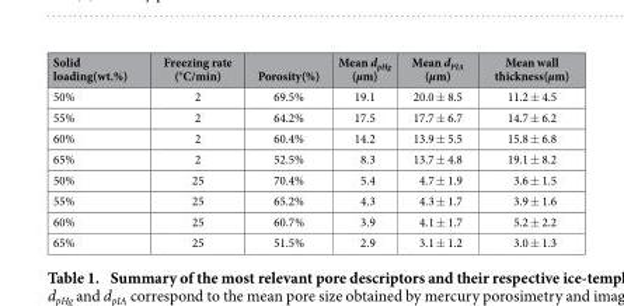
<table><thead><tr><td>Solid loading(wt.%)</td><td>Freezing rate (°C/min)</td><td>Porosity(%)</td><td>Mean d<sub>pHg</sub> (μm)</td><td>Mean d<sub>PIA</sub> (μm)</td><td>Mean wall thickness(μm)</td></tr></thead><tbody><tr><td>50%</td><td>2</td><td>69.5%</td><td>19.1</td><td>20.0 ± 8.5</td><td>11.2 ± 4.5</td></tr><tr><td>55%</td><td>2</td><td>64.2%</td><td>17.5</td><td>17.7 ± 6.7</td><td>14.7 ± 6.2</td></tr><tr><td>60%</td><td>2</td><td>60.4%</td><td>14.2</td><td>13.9 ± 5.5</td><td>15.8 ± 6.8</td></tr><tr><td>65%</td><td>2</td><td>52.5%</td><td>8.3</td><td>13.7 ± 4.8</td><td>19.1 ± 8.2</td></tr><tr><td>50%</td><td>25</td><td>70.4%</td><td>5.4</td><td>4.7 ± 1.9</td><td>3.6 ± 1.5</td></tr><tr><td>55%</td><td>25</td><td>65.2%</td><td>4.3</td><td>4.3 ± 1.7</td><td>3.9 ± 1.6</td></tr><tr><td>60%</td><td>25</td><td>60.7%</td><td>3.9</td><td>4.1 ± 1.7</td><td>5.2 ± 2.2</td></tr><tr><td>65%</td><td>25</td><td>51.5%</td><td>2.9</td><td>3.1 ± 1.2</td><td>3.0 ± 1.3</td></tr></tbody></table>